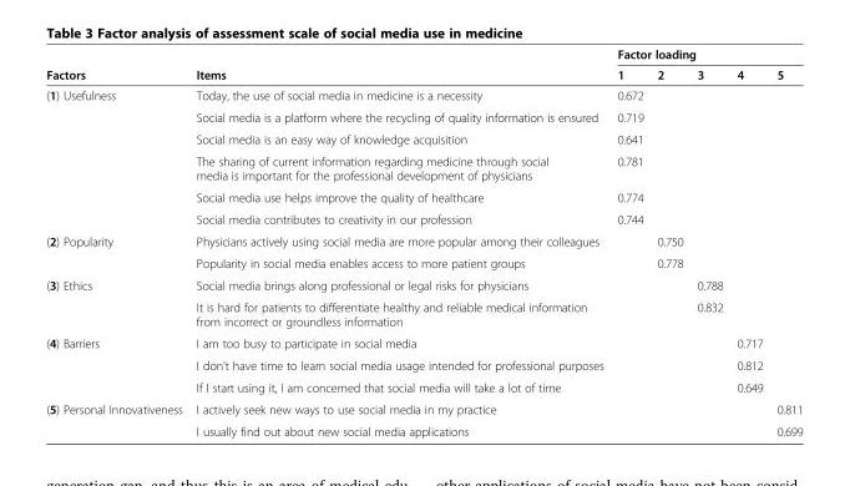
<table><thead><tr><td rowspan="2">Factors</td><td rowspan="2">Items</td><td colspan="5">Factor loading</td></tr><tr><td>1</td><td>2</td><td>3</td><td>4</td><td>5</td></tr></thead><tbody><tr><td rowspan="6">(1) Usefulness</td><td>Today, the use of social media in medicine is a necessity</td><td>0.672</td><td></td><td></td><td></td><td></td></tr><tr><td>Social media is a platform where the recycling of quality information is ensured</td><td>0.719</td><td></td><td></td><td></td><td></td></tr><tr><td>Social media is an easy way of knowledge acquisition</td><td>0.641</td><td></td><td></td><td></td><td></td></tr><tr><td>The sharing of current information regarding medicine through social media is important for the professional development of physicians</td><td>0.781</td><td></td><td></td><td></td><td></td></tr><tr><td>Social media use helps improve the quality of healthcare</td><td>0.774</td><td></td><td></td><td></td><td></td></tr><tr><td>Social media contributes to creativity in our profession</td><td>0.744</td><td></td><td></td><td></td><td></td></tr><tr><td rowspan="2">(2) Popularity</td><td>Physicians actively using social media are more popular among their colleagues</td><td></td><td>0.750</td><td></td><td></td><td></td></tr><tr><td>Popularity in social media enables access to more patient groups</td><td></td><td>0.778</td><td></td><td></td><td></td></tr><tr><td rowspan="2">(3) Ethics</td><td>Social media brings along professional or legal risks for physicians</td><td></td><td></td><td>0.788</td><td></td><td></td></tr><tr><td>It is hard for patients to differentiate healthy and reliable medical information from incorrect or groundless information</td><td></td><td></td><td>0.832</td><td></td><td></td></tr><tr><td rowspan="3">(4) Barriers</td><td>I am too busy to participate in social media</td><td></td><td></td><td></td><td>0.717</td><td></td></tr><tr><td>I don’t have time to learn social media usage intended for professional purposes</td><td></td><td></td><td></td><td>0.812</td><td></td></tr><tr><td>If I start using it, I am concerned that social media will take a lot of time</td><td></td><td></td><td></td><td>0.649</td><td></td></tr><tr><td rowspan="2">(5) Personal Innovativeness</td><td>I actively seek new ways to use social media in my practice</td><td></td><td></td><td></td><td></td><td>0.811</td></tr><tr><td>I usually find out about new social media applications</td><td></td><td></td><td></td><td></td><td>0.699</td></tr></tbody></table>